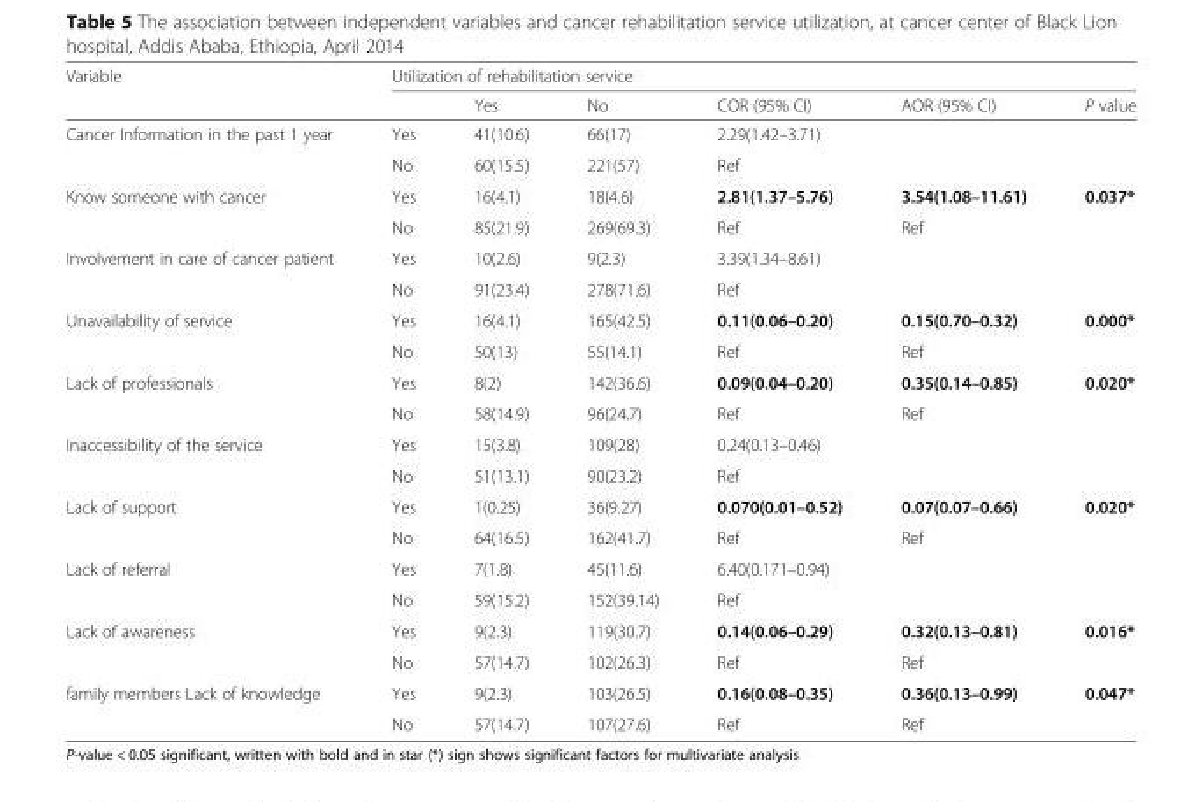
<table><thead><tr><td rowspan="2">Variable</td><td colspan="6">Utilization of rehabilitation service</td></tr><tr><td></td><td>Yes</td><td>No</td><td>COR (95% CI)</td><td>AOR (95% CI)</td><td>P value</td></tr></thead><tbody><tr><td rowspan="2">Cancer Information in the past 1 year</td><td>Yes</td><td>41(10.6)</td><td>66(17)</td><td>2.29(1.42–3.71)</td><td></td><td></td></tr><tr><td>No</td><td>60(15.5)</td><td>221(57)</td><td>Ref</td><td></td><td></td></tr><tr><td rowspan="2">Know someone with cancer</td><td>Yes</td><td>16(4.1)</td><td>18(4.6)</td><td>2.81(1.37–5.76)</td><td>3.54(1.08–11.61)</td><td>0.037*</td></tr><tr><td>No</td><td>85(21.9)</td><td>269(69.3)</td><td>Ref</td><td>Ref</td><td></td></tr><tr><td rowspan="2">Involvement in care of cancer patient</td><td>Yes</td><td>10(2.6)</td><td>9(2.3)</td><td>3.39(1.34–8.61)</td><td></td><td></td></tr><tr><td>No</td><td>91(23.4)</td><td>278(71.6)</td><td>Ref</td><td></td><td></td></tr><tr><td rowspan="2">Unavailability of service</td><td>Yes</td><td>16(4.1)</td><td>165(42.5)</td><td>0.11(0.06–0.20)</td><td>0.15(0.70–0.32)</td><td>0.000*</td></tr><tr><td>No</td><td>50(13)</td><td>55(14.1)</td><td>Ref</td><td>Ref</td><td></td></tr><tr><td rowspan="2">Lack of professionals</td><td>Yes</td><td>8(2)</td><td>142(36.6)</td><td>0.09(0.04–0.20)</td><td>0.35(0.14–0.85)</td><td>0.020*</td></tr><tr><td>No</td><td>58(14.9)</td><td>96(24.7)</td><td>Ref</td><td>Ref</td><td></td></tr><tr><td rowspan="2">Inaccessibility of the service</td><td>Yes</td><td>15(3.8)</td><td>109(28)</td><td>0.24(0.13–0.46)</td><td></td><td></td></tr><tr><td>No</td><td>51(13.1)</td><td>90(23.2)</td><td>Ref</td><td></td><td></td></tr><tr><td rowspan="2">Lack of support</td><td>Yes</td><td>1(0.25)</td><td>36(9.27)</td><td>0.070(0.01–0.52)</td><td>0.07(0.07–0.66)</td><td>0.020*</td></tr><tr><td>No</td><td>64(16.5)</td><td>162(41.7)</td><td>Ref</td><td>Ref</td><td></td></tr><tr><td rowspan="2">Lack of referral</td><td>Yes</td><td>7(1.8)</td><td>45(11.6)</td><td>6.40(0.171–0.94)</td><td></td><td></td></tr><tr><td>No</td><td>59(15.2)</td><td>152(39.14)</td><td>Ref</td><td></td><td></td></tr><tr><td rowspan="2">Lack of awareness</td><td>Yes</td><td>9(2.3)</td><td>119(30.7)</td><td>0.14(0.06–0.29)</td><td>0.32(0.13–0.81)</td><td>0.016*</td></tr><tr><td>No</td><td>57(14.7)</td><td>102(26.3)</td><td>Ref</td><td>Ref</td><td></td></tr><tr><td rowspan="2">family members Lack of knowledge</td><td>Yes</td><td>9(2.3)</td><td>103(26.5)</td><td>0.16(0.08–0.35)</td><td>0.36(0.13–0.99)</td><td>0.047*</td></tr><tr><td>No</td><td>57(14.7)</td><td>107(27.6)</td><td>Ref</td><td>Ref</td><td></td></tr></tbody></table>